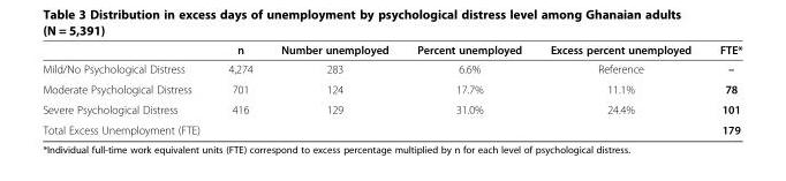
<table><thead><tr><td></td><td>n</td><td>Number unemployed</td><td>Percent unemployed</td><td>Excess percent unemployed</td><td>FTE*</td></tr></thead><tbody><tr><td>Mild/No Psychological Distress</td><td>4,274</td><td>283</td><td>6.6%</td><td>Reference</td><td>–</td></tr><tr><td>Moderate Psychological Distress</td><td>701</td><td>124</td><td>17.7%</td><td>11.1%</td><td>78</td></tr><tr><td>Severe Psychological Distress</td><td>416</td><td>129</td><td>31.0%</td><td>24.4%</td><td>101</td></tr><tr><td>Total Excess Unemployment (FTE)</td><td></td><td></td><td></td><td></td><td>179</td></tr></tbody></table>